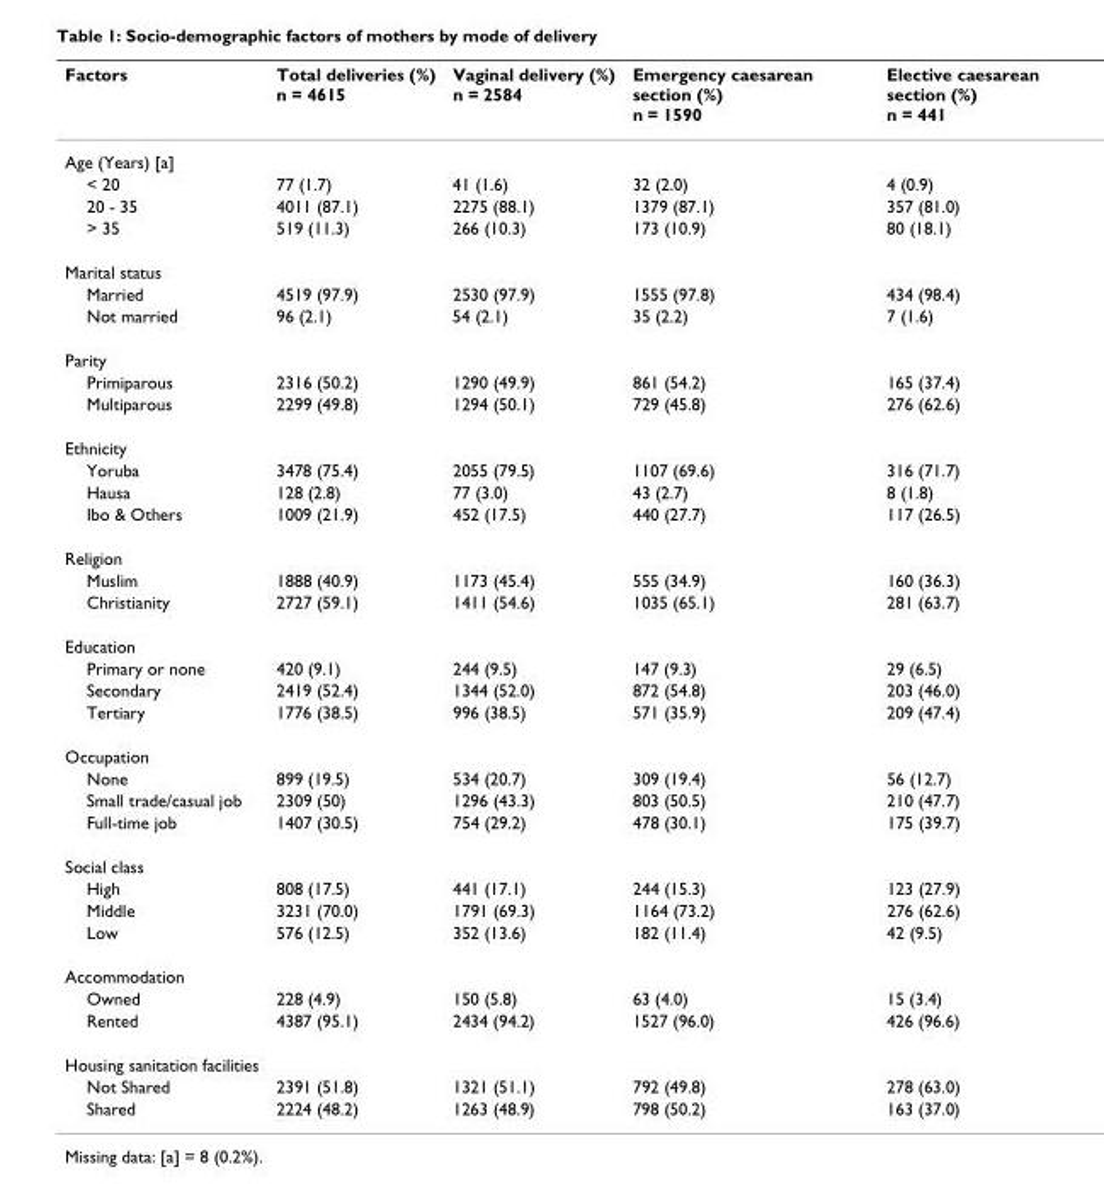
<table><thead><tr><td>Factors</td><td>Total deliveries (%) n = 4615</td><td>Vaginal delivery (%) n = 2584</td><td>Emergency caesarean section (%) n = 1590</td><td>Elective caesarean section (%) n = 441</td></tr></thead><tbody><tr><td colspan="5">Age (Years) [a]</td></tr><tr><td>&lt; 20</td><td>77 (1.7)</td><td>41 (1.6)</td><td>32 (2.0)</td><td>4 (0.9)</td></tr><tr><td>20 - 35</td><td>4011 (87.1)</td><td>2275 (88.1)</td><td>1379 (87.1)</td><td>357 (81.0)</td></tr><tr><td>&gt; 35</td><td>519 (11.3)</td><td>266 (10.3)</td><td>173 (10.9)</td><td>80 (18.1)</td></tr><tr><td colspan="5">Marital status</td></tr><tr><td>Married</td><td>4519 (97.9)</td><td>2530 (97.9)</td><td>1555 (97.8)</td><td>434 (98.4)</td></tr><tr><td>Not married</td><td>96 (2.1)</td><td>54 (2.1)</td><td>35 (2.2)</td><td>7 (1.6)</td></tr><tr><td colspan="5">Parity</td></tr><tr><td>Primiparous</td><td>2316 (50.2)</td><td>1290 (49.9)</td><td>861 (54.2)</td><td>165 (37.4)</td></tr><tr><td>Multiparous</td><td>2299 (49.8)</td><td>1294 (50.1)</td><td>729 (45.8)</td><td>276 (62.6)</td></tr><tr><td colspan="5">Ethnicity</td></tr><tr><td>Yoruba</td><td>3478 (75.4)</td><td>2055 (79.5)</td><td>1107 (69.6)</td><td>316 (71.7)</td></tr><tr><td>Hausa</td><td>128 (2.8)</td><td>77 (3.0)</td><td>43 (2.7)</td><td>8 (1.8)</td></tr><tr><td>Ibo &amp; Others</td><td>1009 (21.9)</td><td>452 (17.5)</td><td>440 (27.7)</td><td>117 (26.5)</td></tr><tr><td colspan="5">Religion</td></tr><tr><td>Muslim</td><td>1888 (40.9)</td><td>1173 (45.4)</td><td>555 (34.9)</td><td>160 (36.3)</td></tr><tr><td>Christianity</td><td>2727 (59.1)</td><td>1411 (54.6)</td><td>1035 (65.1)</td><td>281 (63.7)</td></tr><tr><td colspan="5">Education</td></tr><tr><td>Primary or none</td><td>420 (9.1)</td><td>244 (9.5)</td><td>147 (9.3)</td><td>29 (6.5)</td></tr><tr><td>Secondary</td><td>2419 (52.4)</td><td>1344 (52.0)</td><td>872 (54.8)</td><td>203 (46.0)</td></tr><tr><td>Tertiary</td><td>1776 (38.5)</td><td>996 (38.5)</td><td>571 (35.9)</td><td>209 (47.4)</td></tr><tr><td colspan="5">Occupation</td></tr><tr><td>None</td><td>899 (19.5)</td><td>534 (20.7)</td><td>309 (19.4)</td><td>56 (12.7)</td></tr><tr><td>Small trade/casual job</td><td>2309 (50)</td><td>1296 (43.3)</td><td>803 (50.5)</td><td>210 (47.7)</td></tr><tr><td>Full-time job</td><td>1407 (30.5)</td><td>754 (29.2)</td><td>478 (30.1)</td><td>175 (39.7)</td></tr><tr><td colspan="5">Social class</td></tr><tr><td>High</td><td>808 (17.5)</td><td>441 (17.1)</td><td>244 (15.3)</td><td>123 (27.9)</td></tr><tr><td>Middle</td><td>3231 (70.0)</td><td>1791 (69.3)</td><td>1164 (73.2)</td><td>276 (62.6)</td></tr><tr><td>Low</td><td>576 (12.5)</td><td>352 (13.6)</td><td>182 (11.4)</td><td>42 (9.5)</td></tr><tr><td colspan="5">Accommodation</td></tr><tr><td>Owned</td><td>228 (4.9)</td><td>150 (5.8)</td><td>63 (4.0)</td><td>15 (3.4)</td></tr><tr><td>Rented</td><td>4387 (95.1)</td><td>2434 (94.2)</td><td>1527 (96.0)</td><td>426 (96.6)</td></tr><tr><td colspan="5">Housing sanitation facilities</td></tr><tr><td>Not Shared</td><td>2391 (51.8)</td><td>1321 (51.1)</td><td>792 (49.8)</td><td>278 (63.0)</td></tr><tr><td>Shared</td><td>2224 (48.2)</td><td>1263 (48.9)</td><td>798 (50.2)</td><td>163 (37.0)</td></tr></tbody></table>